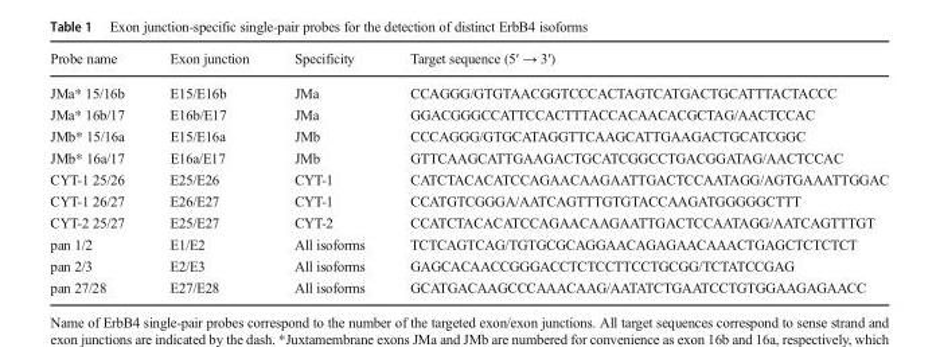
<table><thead><tr><td>Probe name</td><td>Exon junction</td><td>Specificity</td><td>Target sequence (5′ → 3′)</td></tr></thead><tbody><tr><td>JMa* 15/16b</td><td>E15/E16b</td><td>JMa</td><td>CCAGGG/GTGTAACGGTCCCACTAGTCATGACTGCATTTACTACCC</td></tr><tr><td>JMa* 16b/17</td><td>E16b/E17</td><td>JMa</td><td>GGACGGGCCATTCCACTTTACCACAACACGCTAG/AACTCCAC</td></tr><tr><td>JMb* 15/16a</td><td>E15/E16a</td><td>JMb</td><td>CCCAGGG/GTGCATAGGTTCAAGCATTGAAGACTGCATCGGC</td></tr><tr><td>JMb* 16a/17</td><td>E16a/E17</td><td>JMb</td><td>GTTCAAGCATTGAAGACTGCATCGGCCTGACGGATAG/AACTCCAC</td></tr><tr><td>CYT-1 25/26</td><td>E25/E26</td><td>CYT-1</td><td>CATCTACACATCCAGAACAAGAATTGACTCCAATAGG/AGTGAAATTGGAC</td></tr><tr><td>CYT-1 26/27</td><td>E26/E27</td><td>CYT-1</td><td>CCATGTCGGGA/AATCAGTTTGTGTACCAAGATGGGGGCTTT</td></tr><tr><td>CYT-2 25/27</td><td>E25/E27</td><td>CYT-2</td><td>CCATCTACACATCCAGAACAAGAATTGACTCCAATAGG/AATCAGTTTGT</td></tr><tr><td>pan 1/2</td><td>E1/E2</td><td>All isoforms</td><td>TCTCAGTCAG/TGTGCGCAGGAACAGAGAACAAACTGAGCTCTCTCT</td></tr><tr><td>pan 2/3</td><td>E2/E3</td><td>All isoforms</td><td>GAGCACAACCGGGACCTCTCCTTCCTGCGG/TCTATCCGAG</td></tr><tr><td>pan 27/28</td><td>E27/E28</td><td>All isoforms</td><td>GCATGACAAGCCCAAACAAG/AATATCTGAATCCTGTGGAAGAGAACC</td></tr></tbody></table>